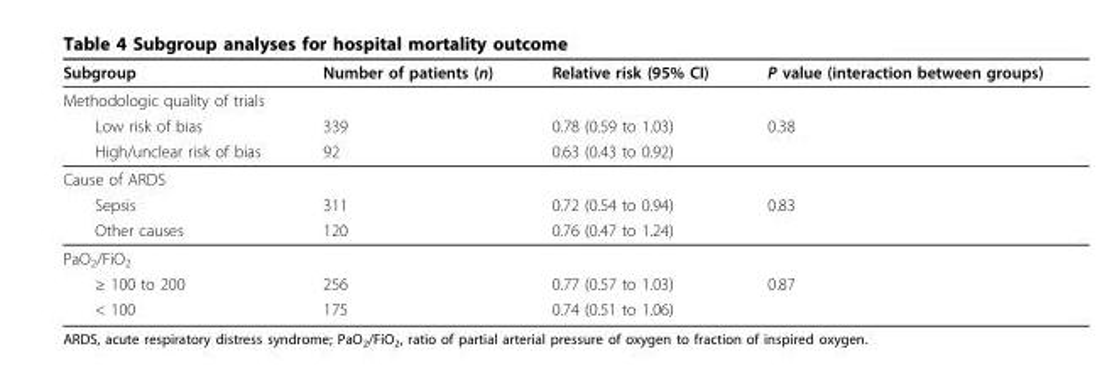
<table><thead><tr><td>Subgroup</td><td>Number of patients (n)</td><td>Relative risk (95% CI)</td><td>P value (interaction between groups)</td></tr></thead><tbody><tr><td colspan="4">Methodologic quality of trials</td></tr><tr><td>Low risk of bias</td><td>339</td><td>0.78 (0.59 to 1.03)</td><td>0.38</td></tr><tr><td>High/unclear risk of bias</td><td>92</td><td>0.63 (0.43 to 0.92)</td><td></td></tr><tr><td colspan="4">Cause of ARDS</td></tr><tr><td>Sepsis</td><td>311</td><td>0.72 (0.54 to 0.94)</td><td>0.83</td></tr><tr><td>Other causes</td><td>120</td><td>0.76 (0.47 to 1.24)</td><td></td></tr><tr><td colspan="4">PaO<sub>2</sub>/FiO<sub>2</sub></td></tr><tr><td>≥ 100 to 200</td><td>256</td><td>0.77 (0.57 to 1.03)</td><td>0.87</td></tr><tr><td>&lt; 100</td><td>175</td><td>0.74 (0.51 to 1.06)</td><td></td></tr></tbody></table>